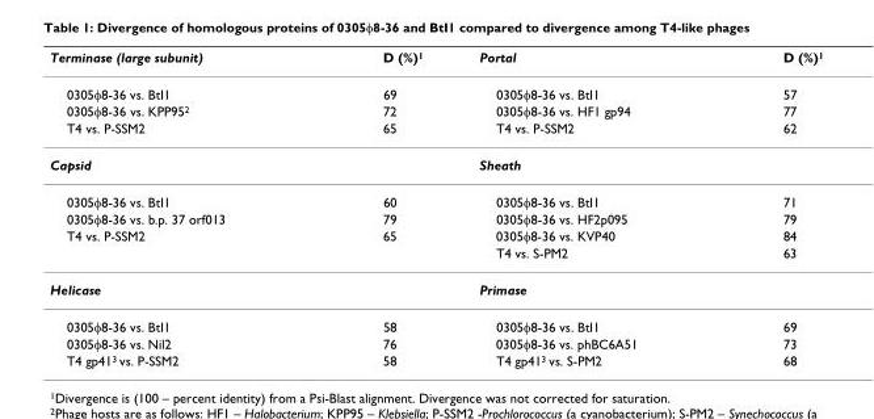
<table><thead><tr><td>Terminase (large subunit)</td><td>D (%)<sup>1</sup></td><td>Portal</td><td>D (%)<sup>1</sup></td></tr></thead><tbody><tr><td>0305φ8-36 vs. BtI1</td><td>69</td><td>0305φ8-36 vs. BtI1</td><td>57</td></tr><tr><td>0305φ8-36 vs. KPP95<sup>2</sup></td><td>72</td><td>0305φ8-36 vs. HF1 gp94</td><td>77</td></tr><tr><td>T4 vs. P-SSM2</td><td>65</td><td>T4 vs. P-SSM2</td><td>62</td></tr><tr><td>Capsid</td><td></td><td>Sheath</td><td></td></tr><tr><td>0305φ8-36 vs. BtI1</td><td>60</td><td>0305φ8-36 vs. BtI1</td><td>71</td></tr><tr><td>0305φ8-36 vs. b.p. 37 orf013</td><td>79</td><td>0305φ8-36 vs. HF2p095</td><td>79</td></tr><tr><td rowspan="2">T4 vs. P-SSM2</td><td>65</td><td>0305φ8-36 vs. KVP40</td><td>84</td></tr><tr><td></td><td>T4 vs. S-PM2</td><td>63</td></tr><tr><td>Helicase</td><td></td><td>Primase</td><td></td></tr><tr><td>0305φ8-36 vs. BtI1</td><td>58</td><td>0305φ8-36 vs. BtI1</td><td>69</td></tr><tr><td>0305φ8-36 vs. Nil2</td><td>76</td><td>0305φ8-36 vs. phBC6A51</td><td>73</td></tr><tr><td>T4 gp41<sup>3</sup> vs. P-SSM2</td><td>58</td><td>T4 gp41<sup>3</sup> vs. S-PM2</td><td>68</td></tr></tbody></table>